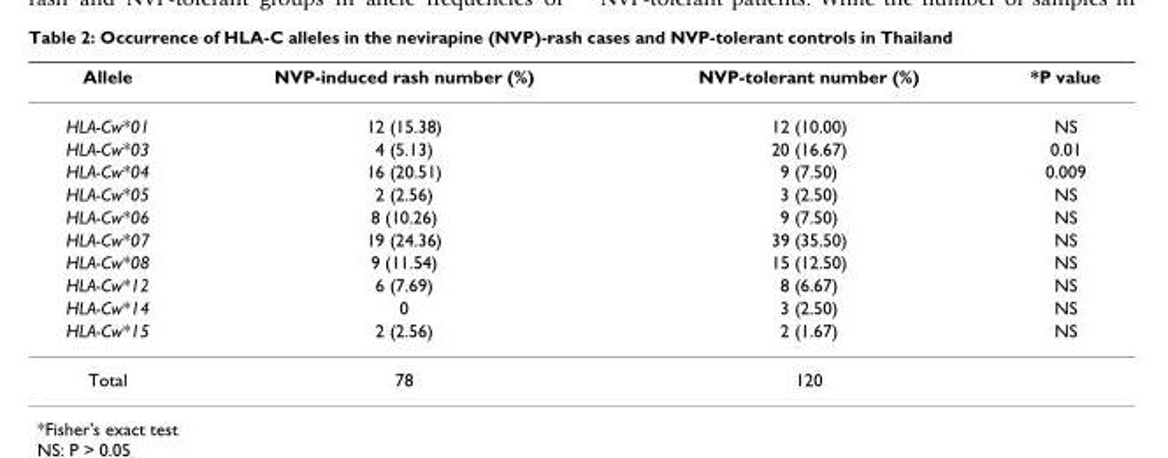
<table><thead><tr><td>Allele</td><td>NVP-induced rash number (%)</td><td>NVP-tolerant number (%)</td><td>*P value</td></tr></thead><tbody><tr><td>HLA-Cw*01</td><td>12 (15.38)</td><td>12 (10.00)</td><td>NS</td></tr><tr><td>HLA-Cw*03</td><td>4 (5.13)</td><td>20 (16.67)</td><td>0.01</td></tr><tr><td>HLA-Cw*04</td><td>16 (20.51)</td><td>9 (7.50)</td><td>0.009</td></tr><tr><td>HLA-Cw*05</td><td>2 (2.56)</td><td>3 (2.50)</td><td>NS</td></tr><tr><td>HLA-Cw*06</td><td>8 (10.26)</td><td>9 (7.50)</td><td>NS</td></tr><tr><td>HLA-Cw*07</td><td>19 (24.36)</td><td>39 (35.50)</td><td>NS</td></tr><tr><td>HLA-Cw*08</td><td>9 (11.54)</td><td>15 (12.50)</td><td>NS</td></tr><tr><td>HLA-Cw*12</td><td>6 (7.69)</td><td>8 (6.67)</td><td>NS</td></tr><tr><td>HLA-Cw*14</td><td>0</td><td>3 (2.50)</td><td>NS</td></tr><tr><td>HLA-Cw*15</td><td>2 (2.56)</td><td>2 (1.67)</td><td>NS</td></tr><tr><td>Total</td><td>78</td><td>120</td><td></td></tr></tbody></table>